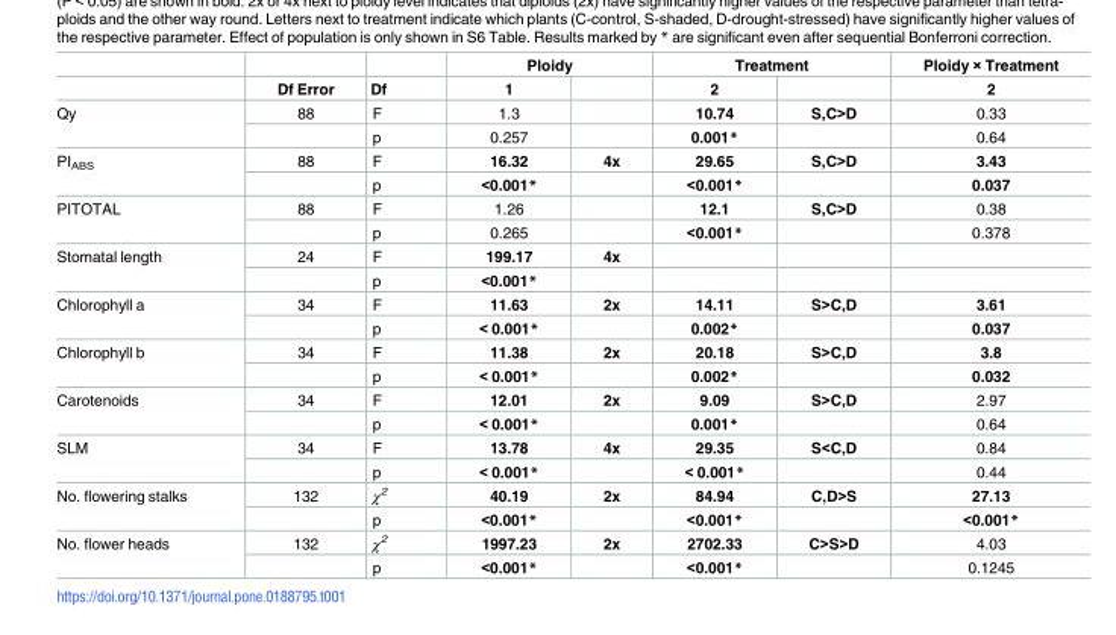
<table><thead><tr><td rowspan="2"></td><td rowspan="2">Df Error</td><td rowspan="2">Df</td><td colspan="2">Ploidy</td><td colspan="2">Treatment</td><td rowspan="2">Ploidy × Treatment 2</td></tr><tr><td>1</td><td></td><td>2</td><td></td></tr></thead><tbody><tr><td rowspan="2">Qy</td><td>88</td><td>F</td><td>1.3</td><td></td><td>10.74</td><td>S,C&gt;D</td><td>0.33</td></tr><tr><td></td><td>p</td><td>0.257</td><td></td><td>0.001*</td><td></td><td>0.64</td></tr><tr><td rowspan="2">PI<sub>ABS</sub></td><td>88</td><td>F</td><td>16.32</td><td>4x</td><td>29.65</td><td>S,C&gt;D</td><td>3.43</td></tr><tr><td></td><td>p</td><td>&lt;0.001*</td><td></td><td>&lt;0.001*</td><td></td><td>0.037</td></tr><tr><td rowspan="2">PITOTAL</td><td>88</td><td>F</td><td>1.26</td><td></td><td>12.1</td><td>S,C&gt;D</td><td>0.38</td></tr><tr><td></td><td>p</td><td>0.265</td><td></td><td>&lt;0.001*</td><td></td><td>0.378</td></tr><tr><td rowspan="2">Stomatal length</td><td>24</td><td>F</td><td>199.17</td><td>4x</td><td></td><td></td><td></td></tr><tr><td></td><td>p</td><td>&lt;0.001*</td><td></td><td></td><td></td><td></td></tr><tr><td rowspan="2">Chlorophyll a</td><td>34</td><td>F</td><td>11.63</td><td>2x</td><td>14.11</td><td>S&gt;C,D</td><td>3.61</td></tr><tr><td></td><td>p</td><td>&lt; 0.001*</td><td></td><td>0.002*</td><td></td><td>0.037</td></tr><tr><td rowspan="2">Chlorophyll b</td><td>34</td><td>F</td><td>11.38</td><td>2x</td><td>20.18</td><td>S&gt;C,D</td><td>3.8</td></tr><tr><td></td><td>p</td><td>&lt; 0.001*</td><td></td><td>0.002*</td><td></td><td>0.032</td></tr><tr><td rowspan="2">Carotenoids</td><td>34</td><td>F</td><td>12.01</td><td>2x</td><td>9.09</td><td>S&gt;C,D</td><td>2.97</td></tr><tr><td></td><td>p</td><td>&lt; 0.001*</td><td></td><td>0.001*</td><td></td><td>0.64</td></tr><tr><td rowspan="2">SLM</td><td>34</td><td>F</td><td>13.78</td><td>4x</td><td>29.35</td><td>S&lt;C,D</td><td>0.84</td></tr><tr><td></td><td>p</td><td>&lt; 0.001*</td><td></td><td>&lt; 0.001*</td><td></td><td>0.44</td></tr><tr><td rowspan="2">No. flowering stalks</td><td>132</td><td>χ<sup>2</sup></td><td>40.19</td><td>2x</td><td>84.94</td><td>C,D&gt;S</td><td>27.13</td></tr><tr><td></td><td>p</td><td>&lt;0.001*</td><td></td><td>&lt;0.001*</td><td></td><td>&lt;0.001*</td></tr><tr><td rowspan="2">No. flower heads</td><td>132</td><td>χ<sup>2</sup></td><td>1997.23</td><td>2x</td><td>2702.33</td><td>C&gt;S&gt;D</td><td>4.03</td></tr><tr><td></td><td>p</td><td>&lt;0.001*</td><td></td><td>&lt;0.001*</td><td></td><td>0.1245</td></tr></tbody></table>